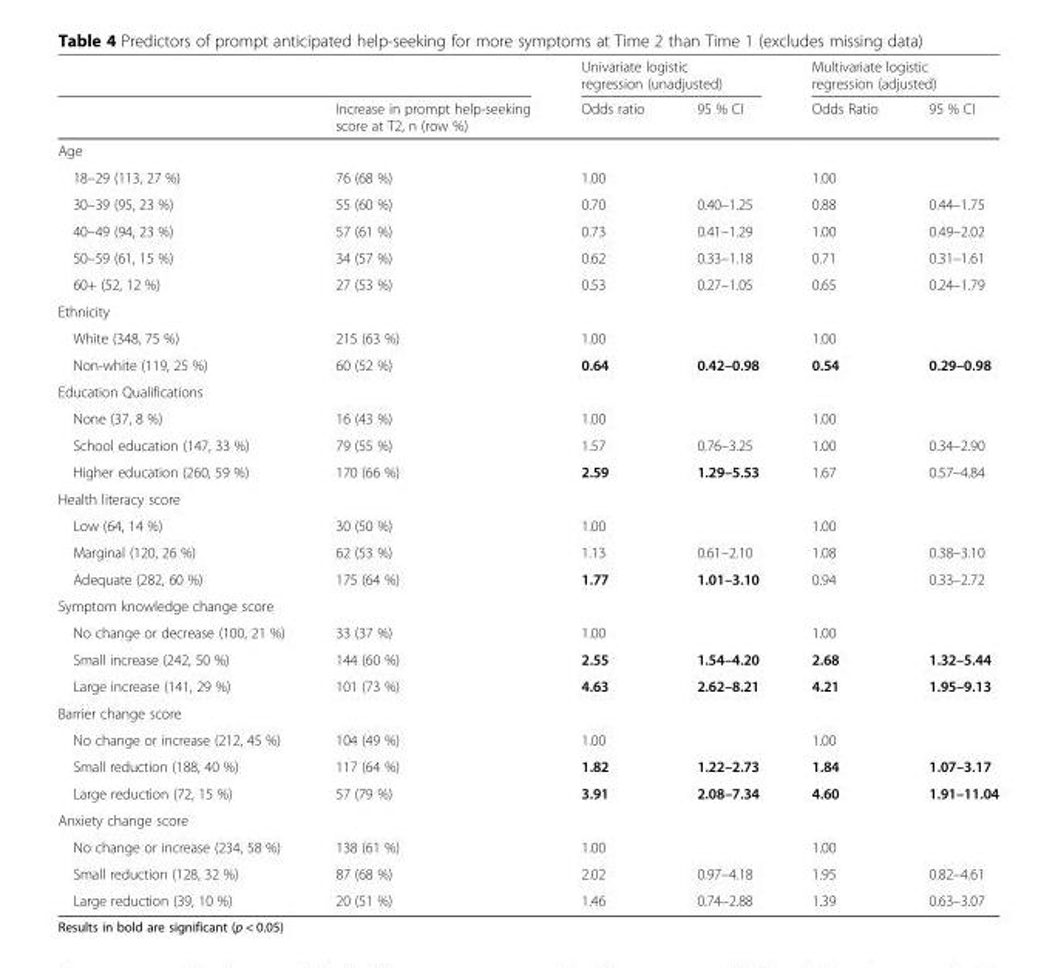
<table><thead><tr><td rowspan="2"></td><td rowspan="2">Increase in prompt help-seeking score at T2, n (row %)</td><td colspan="2">Univariate logistic regression (unadjusted)</td><td colspan="2">Multivariate logistic regression (adjusted)</td></tr><tr><td>Odds ratio</td><td>95 % CI</td><td>Odds Ratio</td><td>95 % CI</td></tr></thead><tbody><tr><td colspan="6">Age</td></tr><tr><td>18–29 (113, 27 %)</td><td>76 (68 %)</td><td>1.00</td><td></td><td>1.00</td><td></td></tr><tr><td>30–39 (95, 23 %)</td><td>55 (60 %)</td><td>0.70</td><td>0.40–1.25</td><td>0.88</td><td>0.44–1.75</td></tr><tr><td>40–49 (94, 23 %)</td><td>57 (61 %)</td><td>0.73</td><td>0.41–1.29</td><td>1.00</td><td>0.49–2.02</td></tr><tr><td>50–59 (61, 15 %)</td><td>34 (57 %)</td><td>0.62</td><td>0.33–1.18</td><td>0.71</td><td>0.31–1.61</td></tr><tr><td>60+ (52, 12 %)</td><td>27 (53 %)</td><td>0.53</td><td>0.27–1.05</td><td>0.65</td><td>0.24–1.79</td></tr><tr><td colspan="6">Ethnicity</td></tr><tr><td>White (348, 75 %)</td><td>215 (63 %)</td><td>1.00</td><td></td><td>1.00</td><td></td></tr><tr><td>Non-white (119, 25 %)</td><td>60 (52 %)</td><td>0.64</td><td>0.42–0.98</td><td>0.54</td><td>0.29–0.98</td></tr><tr><td colspan="6">Education Qualifications</td></tr><tr><td>None (37, 8 %)</td><td>16 (43 %)</td><td>1.00</td><td></td><td>1.00</td><td></td></tr><tr><td>School education (147, 33 %)</td><td>79 (55 %)</td><td>1.57</td><td>0.76–3.25</td><td>1.00</td><td>0.34–2.90</td></tr><tr><td>Higher education (260, 59 %)</td><td>170 (66 %)</td><td>2.59</td><td>1.29–5.53</td><td>1.67</td><td>0.57–4.84</td></tr><tr><td colspan="6">Health literacy score</td></tr><tr><td>Low (64, 14 %)</td><td>30 (50 %)</td><td>1.00</td><td></td><td>1.00</td><td></td></tr><tr><td>Marginal (120, 26 %)</td><td>62 (53 %)</td><td>1.13</td><td>0.61–2.10</td><td>1.08</td><td>0.38–3.10</td></tr><tr><td>Adequate (282, 60 %)</td><td>175 (64 %)</td><td>1.77</td><td>1.01–3.10</td><td>0.94</td><td>0.33–2.72</td></tr><tr><td colspan="6">Symptom knowledge change score</td></tr><tr><td>No change or decrease (100, 21 %)</td><td>33 (37 %)</td><td>1.00</td><td></td><td>1.00</td><td></td></tr><tr><td>Small increase (242, 50 %)</td><td>144 (60 %)</td><td>2.55</td><td>1.54–4.20</td><td>2.68</td><td>1.32–5.44</td></tr><tr><td>Large increase (141, 29 %)</td><td>101 (73 %)</td><td>4.63</td><td>2.62–8.21</td><td>4.21</td><td>1.95–9.13</td></tr><tr><td colspan="6">Barrier change score</td></tr><tr><td>No change or increase (212, 45 %)</td><td>104 (49 %)</td><td>1.00</td><td></td><td>1.00</td><td></td></tr><tr><td>Small reduction (188, 40 %)</td><td>117 (64 %)</td><td>1.82</td><td>1.22–2.73</td><td>1.84</td><td>1.07–3.17</td></tr><tr><td>Large reduction (72, 15 %)</td><td>57 (79 %)</td><td>3.91</td><td>2.08–7.34</td><td>4.60</td><td>1.91–11.04</td></tr><tr><td colspan="6">Anxiety change score</td></tr><tr><td>No change or increase (234, 58 %)</td><td>138 (61 %)</td><td>1.00</td><td></td><td>1.00</td><td></td></tr><tr><td>Small reduction (128, 32 %)</td><td>87 (68 %)</td><td>2.02</td><td>0.97–4.18</td><td>1.95</td><td>0.82–4.61</td></tr><tr><td>Large reduction (39, 10 %)</td><td>20 (51 %)</td><td>1.46</td><td>0.74–2.88</td><td>1.39</td><td>0.63–3.07</td></tr></tbody></table>